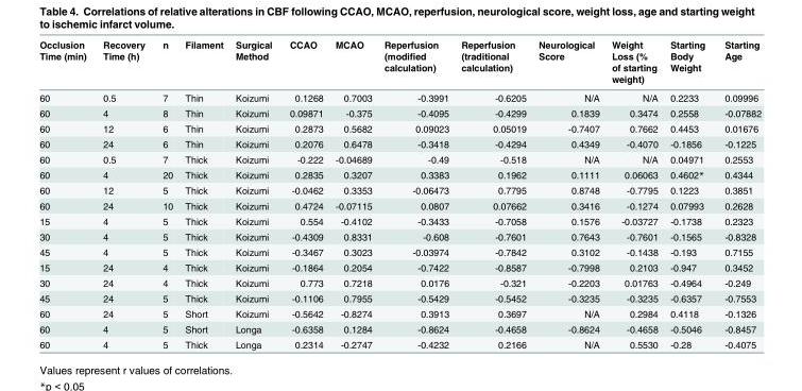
<table><thead><tr><td>Occlusion Time (min)</td><td>Recovery Time (h)</td><td>n</td><td>Filament</td><td>Surgical Method</td><td>CCAO</td><td>MCAO</td><td>Reperfusion (modified calculation)</td><td>Reperfusion (traditional calculation)</td><td>Neurological Score</td><td>Weight Loss (% of starting weight)</td><td>Starting Body Weight</td><td>Starting Age</td></tr></thead><tbody><tr><td>60</td><td>0.5</td><td>7</td><td>Thin</td><td>Koizumi</td><td>0.1268</td><td>0.7003</td><td>-0.3991</td><td>-0.6205</td><td>N/A</td><td>N/A</td><td>0.2233</td><td>0.09996</td></tr><tr><td>60</td><td>4</td><td>8</td><td>Thin</td><td>Koizumi</td><td>0.09871</td><td>-0.375</td><td>-0.4095</td><td>-0.4299</td><td>0.1839</td><td>0.3474</td><td>0.2558</td><td>-0.07882</td></tr><tr><td>60</td><td>12</td><td>6</td><td>Thin</td><td>Koizumi</td><td>0.2873</td><td>0.5682</td><td>0.09023</td><td>0.05019</td><td>-0.7407</td><td>0.7662</td><td>0.4453</td><td>0.01676</td></tr><tr><td>60</td><td>24</td><td>6</td><td>Thin</td><td>Koizumi</td><td>0.2076</td><td>0.6478</td><td>-0.3418</td><td>-0.4294</td><td>0.4349</td><td>-0.4070</td><td>-0.1856</td><td>-0.1225</td></tr><tr><td>60</td><td>0.5</td><td>7</td><td>Thick</td><td>Koizumi</td><td>-0.222</td><td>-0.04689</td><td>-0.49</td><td>-0.518</td><td>N/A</td><td>N/A</td><td>0.04971</td><td>0.2553</td></tr><tr><td>60</td><td>4</td><td>20</td><td>Thick</td><td>Koizumi</td><td>0.2835</td><td>0.3207</td><td>0.3383</td><td>0.1962</td><td>0.1111</td><td>0.06063</td><td>0.4602*</td><td>0.4344</td></tr><tr><td>60</td><td>12</td><td>5</td><td>Thick</td><td>Koizumi</td><td>-0.0462</td><td>0.3353</td><td>-0.06473</td><td>0.7795</td><td>0.8748</td><td>-0.7795</td><td>0.1223</td><td>0.3851</td></tr><tr><td>60</td><td>24</td><td>10</td><td>Thick</td><td>Koizumi</td><td>0.4724</td><td>-0.07115</td><td>0.0807</td><td>0.07662</td><td>0.3416</td><td>-0.1274</td><td>0.07993</td><td>0.2628</td></tr><tr><td>15</td><td>4</td><td>5</td><td>Thick</td><td>Koizumi</td><td>0.554</td><td>-0.4102</td><td>-0.3433</td><td>-0.7058</td><td>0.1576</td><td>-0.03727</td><td>-0.1738</td><td>0.2323</td></tr><tr><td>30</td><td>4</td><td>5</td><td>Thick</td><td>Koizumi</td><td>-0.4309</td><td>0.8331</td><td>-0.608</td><td>-0.7601</td><td>0.7643</td><td>-0.7601</td><td>-0.1565</td><td>-0.8328</td></tr><tr><td>45</td><td>4</td><td>5</td><td>Thick</td><td>Koizumi</td><td>-0.3467</td><td>0.3023</td><td>-0.03974</td><td>-0.7842</td><td>0.3102</td><td>-0.1438</td><td>-0.193</td><td>0.7155</td></tr><tr><td>15</td><td>24</td><td>4</td><td>Thick</td><td>Koizumi</td><td>-0.1864</td><td>0.2054</td><td>-0.7422</td><td>-0.8587</td><td>-0.7998</td><td>0.2103</td><td>-0.947</td><td>0.3452</td></tr><tr><td>30</td><td>24</td><td>4</td><td>Thick</td><td>Koizumi</td><td>0.773</td><td>0.7218</td><td>0.0176</td><td>-0.321</td><td>-0.2203</td><td>0.01763</td><td>-0.4964</td><td>-0.249</td></tr><tr><td>45</td><td>24</td><td>5</td><td>Thick</td><td>Koizumi</td><td>-0.1106</td><td>0.7955</td><td>-0.5429</td><td>-0.5452</td><td>-0.3235</td><td>-0.3235</td><td>-0.6357</td><td>-0.7553</td></tr><tr><td>60</td><td>24</td><td>5</td><td>Short</td><td>Koizumi</td><td>-0.5642</td><td>-0.8274</td><td>0.3913</td><td>0.3697</td><td>N/A</td><td>0.2984</td><td>0.4118</td><td>-0.1326</td></tr><tr><td>60</td><td>4</td><td>5</td><td>Short</td><td>Longa</td><td>-0.6358</td><td>0.1284</td><td>-0.8624</td><td>-0.4658</td><td>-0.8624</td><td>-0.4658</td><td>-0.5046</td><td>-0.8457</td></tr><tr><td>60</td><td>4</td><td>5</td><td>Thick</td><td>Longa</td><td>0.2314</td><td>-0.2747</td><td>-0.4232</td><td>0.2166</td><td>N/A</td><td>0.5530</td><td>-0.28</td><td>-0.4075</td></tr></tbody></table>